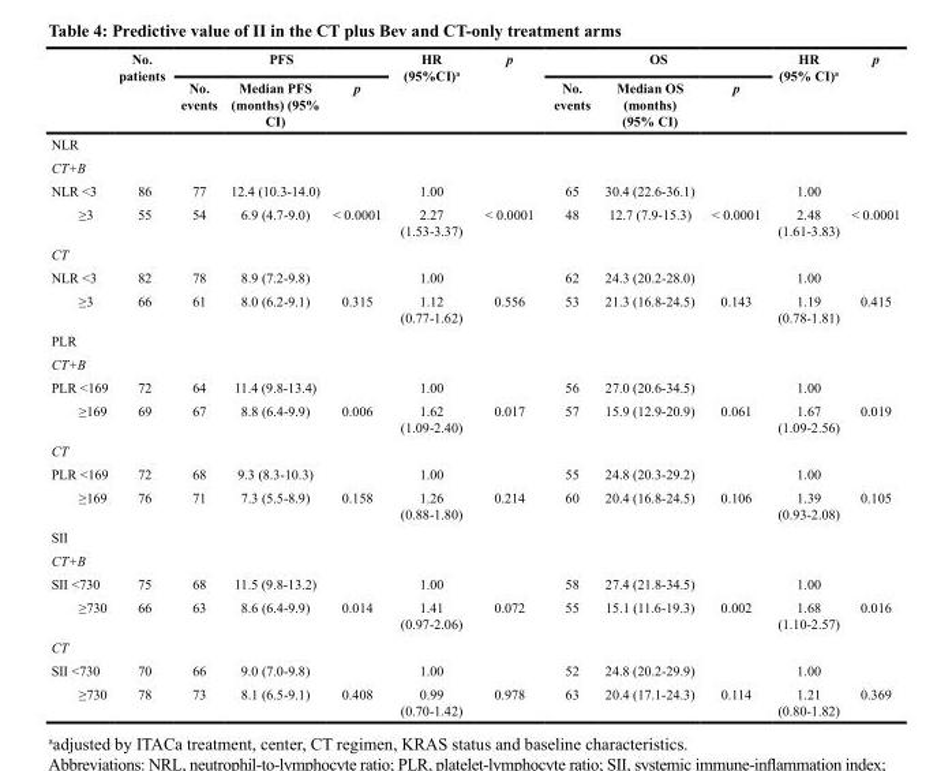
<table><thead><tr><td rowspan="2"></td><td rowspan="2">No. patients</td><td colspan="3">PFS</td><td rowspan="2">HR (95%CI)<sup>a</sup></td><td rowspan="2">p</td><td colspan="3">OS</td><td rowspan="2">HR (95% CI)<sup>a</sup></td><td rowspan="2">p</td></tr><tr><td>No. events</td><td>Median PFS (months) (95% CI)</td><td>p</td><td>No. events</td><td>Median OS (months) (95% CI)</td><td>p</td></tr></thead><tbody><tr><td colspan="12">NLR</td></tr><tr><td colspan="12">CT+B</td></tr><tr><td>NLR &lt;3</td><td>86</td><td>77</td><td>12.4 (10.3-14.0)</td><td></td><td>1.00</td><td></td><td>65</td><td>30.4 (22.6-36.1)</td><td></td><td>1.00</td><td></td></tr><tr><td>≥3</td><td>55</td><td>54</td><td>6.9 (4.7-9.0)</td><td>&lt; 0.0001</td><td>2.27 (1.53-3.37)</td><td>&lt; 0.0001</td><td>48</td><td>12.7 (7.9-15.3)</td><td>&lt; 0.0001</td><td>2.48 (1.61-3.83)</td><td>&lt; 0.0001</td></tr><tr><td colspan="12">CT</td></tr><tr><td>NLR &lt;3</td><td>82</td><td>78</td><td>8.9 (7.2-9.8)</td><td></td><td>1.00</td><td></td><td>62</td><td>24.3 (20.2-28.0)</td><td></td><td>1.00</td><td></td></tr><tr><td>≥3</td><td>66</td><td>61</td><td>8.0 (6.2-9.1)</td><td>0.315</td><td>1.12 (0.77-1.62)</td><td>0.556</td><td>53</td><td>21.3 (16.8-24.5)</td><td>0.143</td><td>1.19 (0.78-1.81)</td><td>0.415</td></tr><tr><td colspan="12">PLR</td></tr><tr><td colspan="12">CT+B</td></tr><tr><td>PLR &lt;169</td><td>72</td><td>64</td><td>11.4 (9.8-13.4)</td><td></td><td>1.00</td><td></td><td>56</td><td>27.0 (20.6-34.5)</td><td></td><td>1.00</td><td></td></tr><tr><td>≥169</td><td>69</td><td>67</td><td>8.8 (6.4-9.9)</td><td>0.006</td><td>1.62 (1.09-2.40)</td><td>0.017</td><td>57</td><td>15.9 (12.9-20.9)</td><td>0.061</td><td>1.67 (1.09-2.56)</td><td>0.019</td></tr><tr><td colspan="12">CT</td></tr><tr><td>PLR &lt;169</td><td>72</td><td>68</td><td>9.3 (8.3-10.3)</td><td></td><td>1.00</td><td></td><td>55</td><td>24.8 (20.3-29.2)</td><td></td><td>1.00</td><td></td></tr><tr><td>≥169</td><td>76</td><td>71</td><td>7.3 (5.5-8.9)</td><td>0.158</td><td>1.26 (0.88-1.80)</td><td>0.214</td><td>60</td><td>20.4 (16.8-24.5)</td><td>0.106</td><td>1.39 (0.93-2.08)</td><td>0.105</td></tr><tr><td colspan="12">SII</td></tr><tr><td colspan="12">CT+B</td></tr><tr><td>SII &lt;730</td><td>75</td><td>68</td><td>11.5 (9.8-13.2)</td><td></td><td>1.00</td><td></td><td>58</td><td>27.4 (21.8-34.5)</td><td></td><td>1.00</td><td></td></tr><tr><td>≥730</td><td>66</td><td>63</td><td>8.6 (6.4-9.9)</td><td>0.014</td><td>1.41 (0.97-2.06)</td><td>0.072</td><td>55</td><td>15.1 (11.6-19.3)</td><td>0.002</td><td>1.68 (1.10-2.57)</td><td>0.016</td></tr><tr><td colspan="12">CT</td></tr><tr><td>SII &lt;730</td><td>70</td><td>66</td><td>9.0 (7.0-9.8)</td><td></td><td>1.00</td><td></td><td>52</td><td>24.8 (20.2-29.9)</td><td></td><td>1.00</td><td></td></tr><tr><td>≥730</td><td>78</td><td>73</td><td>8.1 (6.5-9.1)</td><td>0.408</td><td>0.99 (0.70-1.42)</td><td>0.978</td><td>63</td><td>20.4 (17.1-24.3)</td><td>0.114</td><td>1.21 (0.80-1.82)</td><td>0.369</td></tr></tbody></table>